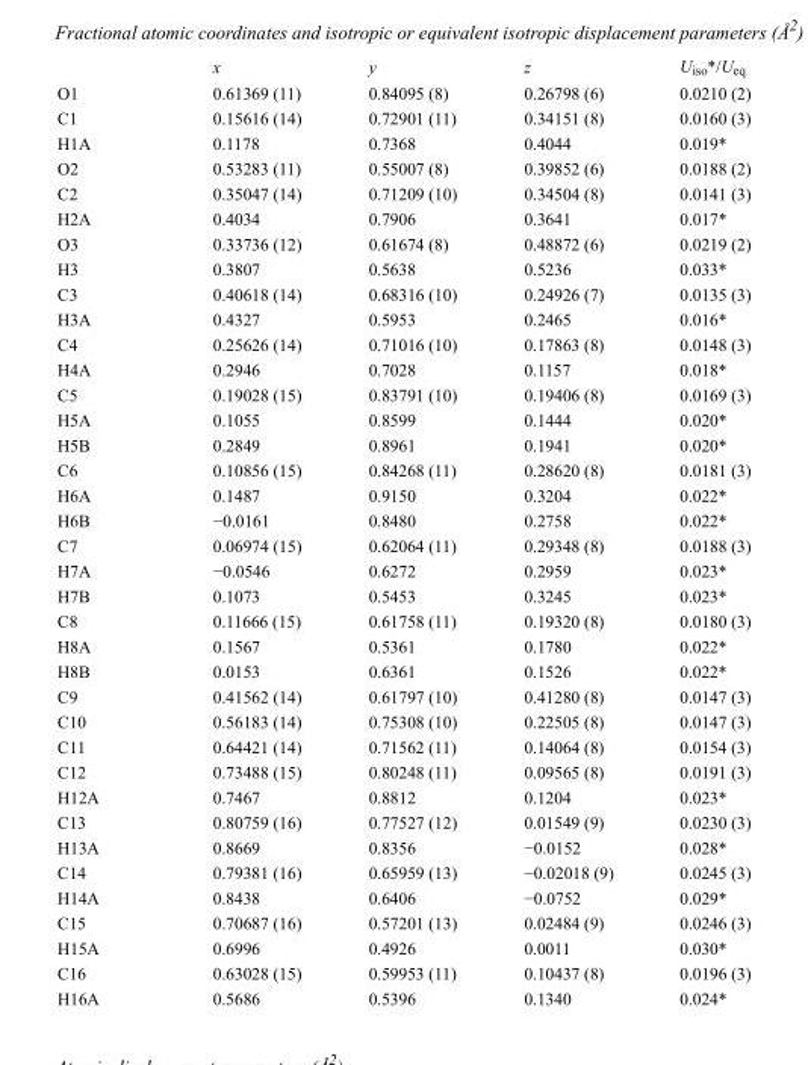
<table><thead><tr><td></td><td>x</td><td>y</td><td>z</td><td>U<sub>iso</sub>*/U<sub>eq</sub></td></tr></thead><tbody><tr><td>O1</td><td>0.61369 (11)</td><td>0.84095 (8)</td><td>0.26798 (6)</td><td>0.0210 (2)</td></tr><tr><td>C1</td><td>0.15616 (14)</td><td>0.72901 (11)</td><td>0.34151 (8)</td><td>0.0160 (3)</td></tr><tr><td>H1A</td><td>0.1178</td><td>0.7368</td><td>0.4044</td><td>0.019*</td></tr><tr><td>O2</td><td>0.53283 (11)</td><td>0.55007 (8)</td><td>0.39852 (6)</td><td>0.0188 (2)</td></tr><tr><td>C2</td><td>0.35047 (14)</td><td>0.71209 (10)</td><td>0.34504 (8)</td><td>0.0141 (3)</td></tr><tr><td>H2A</td><td>0.4034</td><td>0.7906</td><td>0.3641</td><td>0.017*</td></tr><tr><td>O3</td><td>0.33736 (12)</td><td>0.61674 (8)</td><td>0.48872 (6)</td><td>0.0219 (2)</td></tr><tr><td>H3</td><td>0.3807</td><td>0.5638</td><td>0.5236</td><td>0.033*</td></tr><tr><td>C3</td><td>0.40618 (14)</td><td>0.68316 (10)</td><td>0.24926 (7)</td><td>0.0135 (3)</td></tr><tr><td>H3A</td><td>0.4327</td><td>0.5953</td><td>0.2465</td><td>0.016*</td></tr><tr><td>C4</td><td>0.25626 (14)</td><td>0.71016 (10)</td><td>0.17863 (8)</td><td>0.0148 (3)</td></tr><tr><td>H4A</td><td>0.2946</td><td>0.7028</td><td>0.1157</td><td>0.018*</td></tr><tr><td>C5</td><td>0.19028 (15)</td><td>0.83791 (10)</td><td>0.19406 (8)</td><td>0.0169 (3)</td></tr><tr><td>H5A</td><td>0.1055</td><td>0.8599</td><td>0.1444</td><td>0.020*</td></tr><tr><td>H5B</td><td>0.2849</td><td>0.8961</td><td>0.1941</td><td>0.020*</td></tr><tr><td>C6</td><td>0.10856 (15)</td><td>0.84268 (11)</td><td>0.28620 (8)</td><td>0.0181 (3)</td></tr><tr><td>H6A</td><td>0.1487</td><td>0.9150</td><td>0.3204</td><td>0.022*</td></tr><tr><td>H6B</td><td>−0.0161</td><td>0.8480</td><td>0.2758</td><td>0.022*</td></tr><tr><td>C7</td><td>0.06974 (15)</td><td>0.62064 (11)</td><td>0.29348 (8)</td><td>0.0188 (3)</td></tr><tr><td>H7A</td><td>−0.0546</td><td>0.6272</td><td>0.2959</td><td>0.023*</td></tr><tr><td>H7B</td><td>0.1073</td><td>0.5453</td><td>0.3245</td><td>0.023*</td></tr><tr><td>C8</td><td>0.11666 (15)</td><td>0.61758 (11)</td><td>0.19320 (8)</td><td>0.0180 (3)</td></tr><tr><td>H8A</td><td>0.1567</td><td>0.5361</td><td>0.1780</td><td>0.022*</td></tr><tr><td>H8B</td><td>0.0153</td><td>0.6361</td><td>0.1526</td><td>0.022*</td></tr><tr><td>C9</td><td>0.41562 (14)</td><td>0.61797 (10)</td><td>0.41280 (8)</td><td>0.0147 (3)</td></tr><tr><td>C10</td><td>0.56183 (14)</td><td>0.75308 (10)</td><td>0.22505 (8)</td><td>0.0147 (3)</td></tr><tr><td>C11</td><td>0.64421 (14)</td><td>0.71562 (11)</td><td>0.14064 (8)</td><td>0.0154 (3)</td></tr><tr><td>C12</td><td>0.73488 (15)</td><td>0.80248 (11)</td><td>0.09565 (8)</td><td>0.0191 (3)</td></tr><tr><td>H12A</td><td>0.7467</td><td>0.8812</td><td>0.1204</td><td>0.023*</td></tr><tr><td>C13</td><td>0.80759 (16)</td><td>0.77527 (12)</td><td>0.01549 (9)</td><td>0.0230 (3)</td></tr><tr><td>H13A</td><td>0.8669</td><td>0.8356</td><td>−0.0152</td><td>0.028*</td></tr><tr><td>C14</td><td>0.79381 (16)</td><td>0.65959 (13)</td><td>−0.02018 (9)</td><td>0.0245 (3)</td></tr><tr><td>H14A</td><td>0.8438</td><td>0.6406</td><td>−0.0752</td><td>0.029*</td></tr><tr><td>C15</td><td>0.70687 (16)</td><td>0.57201 (13)</td><td>0.02484 (9)</td><td>0.0246 (3)</td></tr><tr><td>H15A</td><td>0.6996</td><td>0.4926</td><td>0.0011</td><td>0.030*</td></tr><tr><td>C16</td><td>0.63028 (15)</td><td>0.59953 (11)</td><td>0.10437 (8)</td><td>0.0196 (3)</td></tr><tr><td>H16A</td><td>0.5686</td><td>0.5396</td><td>0.1340</td><td>0.024*</td></tr></tbody></table>